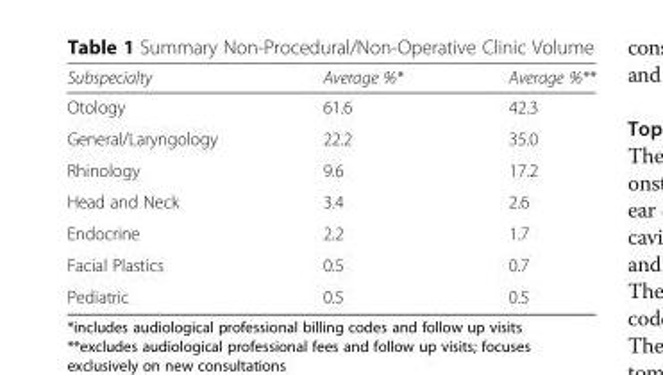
<table><thead><tr><td>Subspecialty</td><td>Average %*</td><td>Average %**</td></tr></thead><tbody><tr><td>Otology</td><td>61.6</td><td>42.3</td></tr><tr><td>General/Laryngology</td><td>22.2</td><td>35.0</td></tr><tr><td>Rhinology</td><td>9.6</td><td>17.2</td></tr><tr><td>Head and Neck</td><td>3.4</td><td>2.6</td></tr><tr><td>Endocrine</td><td>2.2</td><td>1.7</td></tr><tr><td>Facial Plastics</td><td>0.5</td><td>0.7</td></tr><tr><td>Pediatric</td><td>0.5</td><td>0.5</td></tr></tbody></table>